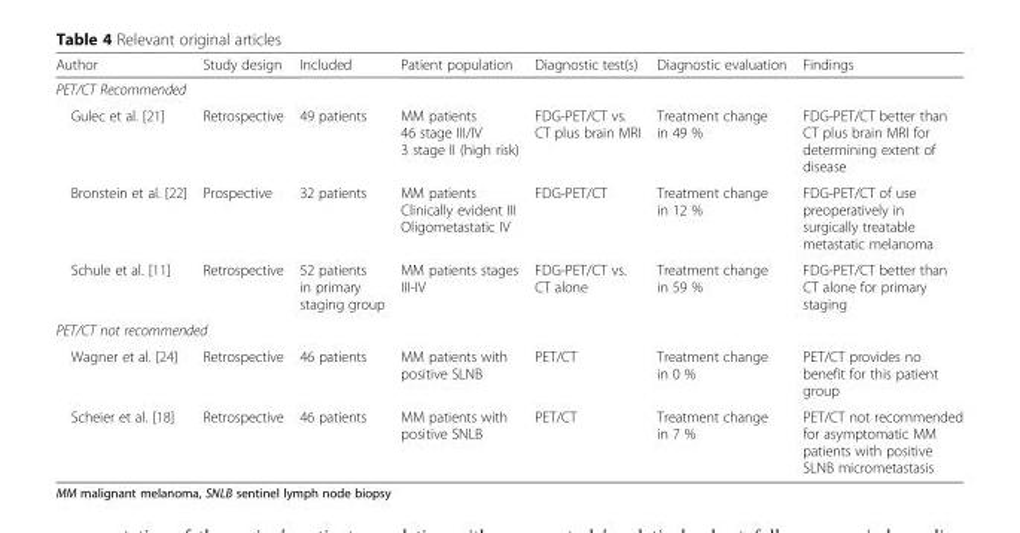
<table><thead><tr><td>Author</td><td>Study design</td><td>Included</td><td>Patient population</td><td>Diagnostic test(s)</td><td>Diagnostic evaluation</td><td>Findings</td></tr></thead><tbody><tr><td colspan="7">PET/CT Recommended</td></tr><tr><td>Gulec et al. [21]</td><td>Retrospective</td><td>49 patients</td><td>MM patients 46 stage III/IV 3 stage II (high risk)</td><td>FDG-PET/CT vs. CT plus brain MRI</td><td>Treatment change in 49 %</td><td>FDG-PET/CT better than CT plus brain MRI for determining extent of disease</td></tr><tr><td>Bronstein et al. [22]</td><td>Prospective</td><td>32 patients</td><td>MM patients Clinically evident III Oligometastatic IV</td><td>FDG-PET/CT</td><td>Treatment change in 12 %</td><td>FDG-PET/CT of use preoperatively in surgically treatable metastatic melanoma</td></tr><tr><td>Schule et al. [11]</td><td>Retrospective</td><td>52 patients in primary staging group</td><td>MM patients stages III-IV</td><td>FDG-PET/CT vs. CT alone</td><td>Treatment change in 59 %</td><td>FDG-PET/CT better than CT alone for primary staging</td></tr><tr><td colspan="7">PET/CT not recommended</td></tr><tr><td>Wagner et al. [24]</td><td>Retrospective</td><td>46 patients</td><td>MM patients with positive SLNB</td><td>PET/CT</td><td>Treatment change in 0 %</td><td>PET/CT provides no benefit for this patient group</td></tr><tr><td>Scheier et al. [18]</td><td>Retrospective</td><td>46 patients</td><td>MM patients with positive SNLB</td><td>PET/CT</td><td>Treatment change in 7 %</td><td>PET/CT not recommended for asymptomatic MM patients with positive SLNB micrometastasis</td></tr></tbody></table>